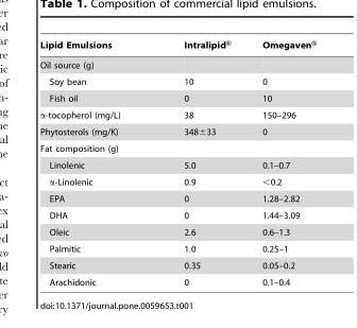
<table><thead><tr><td>Lipid Emulsions</td><td>Intralipid®</td><td>Omegaven®</td></tr></thead><tbody><tr><td colspan="3">Oil source (g)</td></tr><tr><td>Soy bean</td><td>10</td><td>0</td></tr><tr><td>Fish oil</td><td>0</td><td>10</td></tr><tr><td>α-tocopherol (mg/L)</td><td>38</td><td>150–296</td></tr><tr><td>Phytosterols (mg/K)</td><td>348±33</td><td>0</td></tr><tr><td colspan="3">Fat composition (g)</td></tr><tr><td>Linolenic</td><td>5.0</td><td>0.1–0.7</td></tr><tr><td>α-Linolenic</td><td>0.9</td><td>&lt;0.2</td></tr><tr><td>EPA</td><td>0</td><td>1.28–2.82</td></tr><tr><td>DHA</td><td>0</td><td>1.44–3.09</td></tr><tr><td>Oleic</td><td>2.6</td><td>0.6–1.3</td></tr><tr><td>Palmitic</td><td>1.0</td><td>0.25–1</td></tr><tr><td>Stearic</td><td>0.35</td><td>0.05–0.2</td></tr><tr><td>Arachidonic</td><td>0</td><td>0.1–0.4</td></tr></tbody></table>